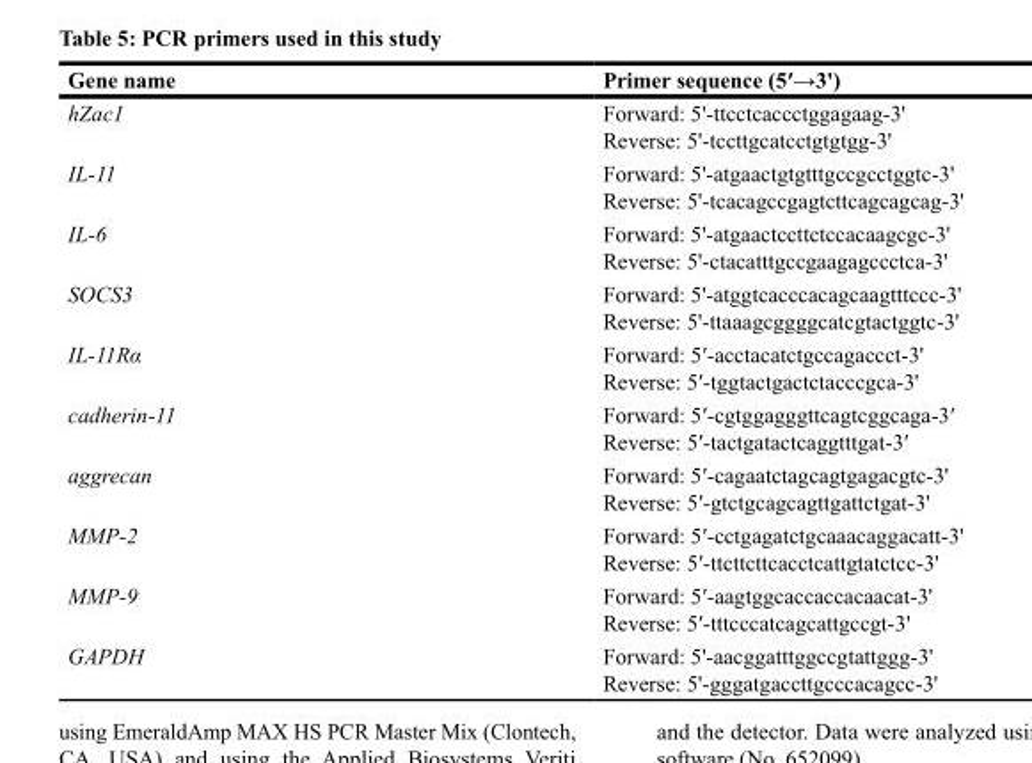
<table><thead><tr><td>Gene name</td><td>Primer sequence (5′→3&#x27;)</td></tr></thead><tbody><tr><td>hZac1</td><td>Forward: 5&#x27;-ttcctcaccctggagaag-3&#x27; Reverse: 5&#x27;-tccttgcatcctgtgtgg-3&#x27;</td></tr><tr><td>IL-11</td><td>Forward: 5&#x27;-atgaactgtgtttgccgcctggtc-3&#x27; Reverse: 5&#x27;-tcacagccgagtcttcagcagcag-3&#x27;</td></tr><tr><td>IL-6</td><td>Forward: 5&#x27;-atgaactccttctccacaagcgc-3&#x27; Reverse: 5&#x27;-ctacatttgccgaagagccctca-3&#x27;</td></tr><tr><td>SOCS3</td><td>Forward: 5&#x27;-atggtcacccacagcaagtttccc-3&#x27; Reverse: 5&#x27;-ttaaagcggggcatcgtactggtc-3&#x27;</td></tr><tr><td>IL-11Rα</td><td>Forward: 5′-acctacatctgccagaccct-3&#x27; Reverse: 5′-tggtactgactctacccgca-3&#x27;</td></tr><tr><td>cadherin-11</td><td>Forward: 5′-cgtggagggttcagtcggcaga-3′ Reverse: 5′-tactgatactcaggtttgat-3′</td></tr><tr><td>aggrecan</td><td>Forward: 5′-cagaatctagcagtgagacgtc-3&#x27; Reverse: 5′-gtctgcagcagttgattctgat-3&#x27;</td></tr><tr><td>MMP-2</td><td>Forward: 5′-cctgagatctgcaaacaggacatt-3&#x27; Reverse: 5′-ttcttcttcacctcattgtatctcc-3&#x27;</td></tr><tr><td>MMP-9</td><td>Forward: 5′-aagtggcaccaccacaacat-3&#x27; Reverse: 5′-tttcccatcagcattgccgt-3&#x27;</td></tr><tr><td>GAPDH</td><td>Forward: 5&#x27;-aacggatttggccgtattggg-3&#x27; Reverse: 5&#x27;-gggatgaccttgcccacagcc-3&#x27;</td></tr></tbody></table>